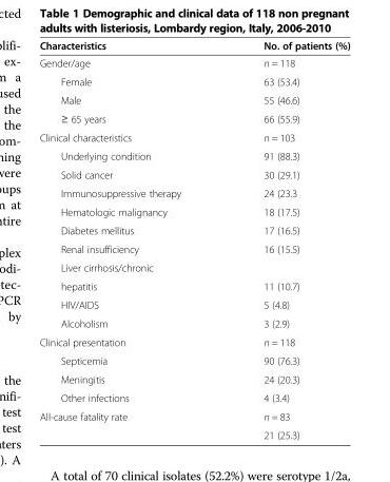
<table><thead><tr><td>Characteristics</td><td>No. of patients (%)</td></tr></thead><tbody><tr><td>Gender/age</td><td>n = 118</td></tr><tr><td>Female</td><td>63 (53.4)</td></tr><tr><td>Male</td><td>55 (46.6)</td></tr><tr><td>≥ 65 years</td><td>66 (55.9)</td></tr><tr><td>Clinical characteristics</td><td>n = 103</td></tr><tr><td>Underlying condition</td><td>91 (88.3)</td></tr><tr><td>Solid cancer</td><td>30 (29.1)</td></tr><tr><td>Immunosuppressive therapy</td><td>24 (23.3</td></tr><tr><td>Hematologic malignancy</td><td>18 (17.5)</td></tr><tr><td>Diabetes mellitus</td><td>17 (16.5)</td></tr><tr><td>Renal insufficiency</td><td>16 (15.5)</td></tr><tr><td colspan="2">Liver cirrhosis/chronic</td></tr><tr><td>hepatitis</td><td>11 (10.7)</td></tr><tr><td>HIV/AIDS</td><td>5 (4.8)</td></tr><tr><td>Alcoholism</td><td>3 (2.9)</td></tr><tr><td>Clinical presentation</td><td>n = 118</td></tr><tr><td>Septicemia</td><td>90 (76.3)</td></tr><tr><td>Meningitis</td><td>24 (20.3)</td></tr><tr><td>Other infections</td><td>4 (3.4)</td></tr><tr><td rowspan="2">All-cause fatality rate</td><td>n = 83</td></tr><tr><td>21 (25.3)</td></tr></tbody></table>